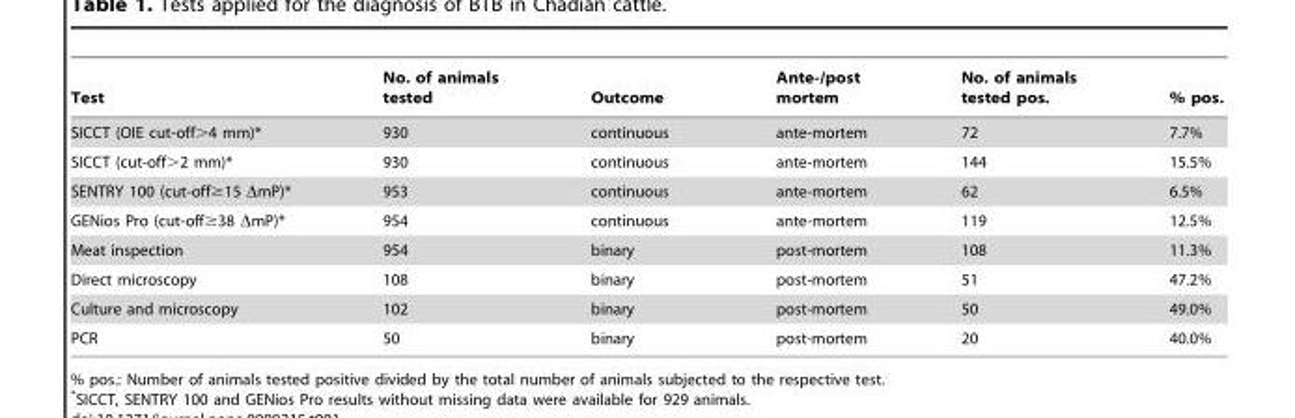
<table><thead><tr><td>Test</td><td>No. of animals tested</td><td>Outcome</td><td>Ante-/post mortem</td><td>No. of animals tested pos.</td><td>% pos.</td></tr></thead><tbody><tr><td>SICCT (OIE cut-off&gt;4 mm)*</td><td>930</td><td>continuous</td><td>ante-mortem</td><td>72</td><td>7.7%</td></tr><tr><td>SICCT (cut-off&gt;2 mm)*</td><td>930</td><td>continuous</td><td>ante-mortem</td><td>144</td><td>15.5%</td></tr><tr><td>SENTRY 100 (cut-off≥15 ΔmP)*</td><td>953</td><td>continuous</td><td>ante-mortem</td><td>62</td><td>6.5%</td></tr><tr><td>GENios Pro (cut-off≥38 ΔmP)*</td><td>954</td><td>continuous</td><td>ante-mortem</td><td>119</td><td>12.5%</td></tr><tr><td>Meat inspection</td><td>954</td><td>binary</td><td>post-mortem</td><td>108</td><td>11.3%</td></tr><tr><td>Direct microscopy</td><td>108</td><td>binary</td><td>post-mortem</td><td>51</td><td>47.2%</td></tr><tr><td>Culture and microscopy</td><td>102</td><td>binary</td><td>post-mortem</td><td>50</td><td>49.0%</td></tr><tr><td>PCR</td><td>50</td><td>binary</td><td>post-mortem</td><td>20</td><td>40.0%</td></tr></tbody></table>